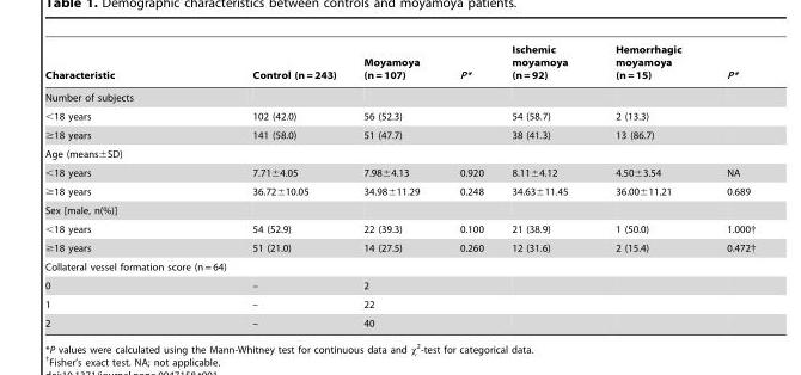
<table><thead><tr><td>Characteristic</td><td>Control (n = 243)</td><td>Moyamoya (n = 107)</td><td>P*</td><td>Ischemic moyamoya (n = 92)</td><td>Hemorrhagic moyamoya (n = 15)</td><td>P*</td></tr></thead><tbody><tr><td colspan="7">Number of subjects</td></tr><tr><td>&lt;18 years</td><td>102 (42.0)</td><td>56 (52.3)</td><td></td><td>54 (58.7)</td><td>2 (13.3)</td><td></td></tr><tr><td>≥18 years</td><td>141 (58.0)</td><td>51 (47.7)</td><td></td><td>38 (41.3)</td><td>13 (86.7)</td><td></td></tr><tr><td colspan="7">Age (means±SD)</td></tr><tr><td>&lt;18 years</td><td>7.71±4.05</td><td>7.98±4.13</td><td>0.920</td><td>8.11±4.12</td><td>4.50±3.54</td><td>NA</td></tr><tr><td>≥18 years</td><td>36.72±10.05</td><td>34.98±11.29</td><td>0.248</td><td>34.63±11.45</td><td>36.00±11.21</td><td>0.689</td></tr><tr><td colspan="7">Sex [male, n(%)]</td></tr><tr><td>&lt;18 years</td><td>54 (52.9)</td><td>22 (39.3)</td><td>0.100</td><td>21 (38.9)</td><td>1 (50.0)</td><td>1.000†</td></tr><tr><td>≥18 years</td><td>51 (21.0)</td><td>14 (27.5)</td><td>0.260</td><td>12 (31.6)</td><td>2 (15.4)</td><td>0.472†</td></tr><tr><td colspan="7">Collateral vessel formation score (n = 64)</td></tr><tr><td>0</td><td>–</td><td>2</td><td></td><td></td><td></td><td></td></tr><tr><td>1</td><td>–</td><td>22</td><td></td><td></td><td></td><td></td></tr><tr><td>2</td><td>–</td><td>40</td><td></td><td></td><td></td><td></td></tr></tbody></table>